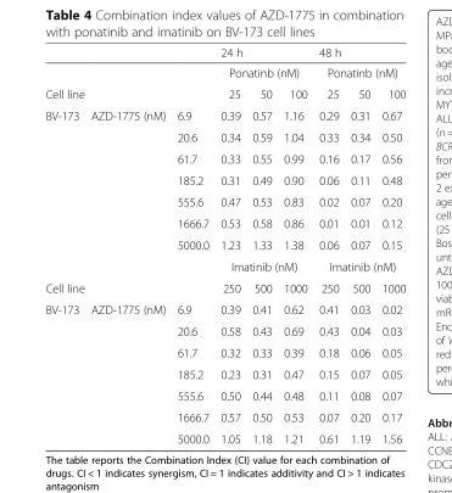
<table><thead><tr><td rowspan="2"></td><td rowspan="2"></td><td rowspan="2"></td><td rowspan="2" colspan="3">24 h Ponatinb (nM)</td><td rowspan="2" colspan="3">48 h Ponatinb (nM)</td></tr><tr></tr><tr><td colspan="3">Cell line</td><td>25</td><td>50</td><td>100</td><td>25</td><td>50</td><td>100</td></tr></thead><tbody><tr><td rowspan="8">BV-173</td><td rowspan="7">AZD-1775 (nM)</td><td>6.9</td><td>0.39</td><td>0.57</td><td>1.16</td><td>0.29</td><td>0.31</td><td>0.67</td></tr><tr><td>20.6</td><td>0.34</td><td>0.59</td><td>1.04</td><td>0.33</td><td>0.34</td><td>0.50</td></tr><tr><td>61.7</td><td>0.33</td><td>0.55</td><td>0.99</td><td>0.16</td><td>0.17</td><td>0.56</td></tr><tr><td>185.2</td><td>0.31</td><td>0.49</td><td>0.90</td><td>0.06</td><td>0.11</td><td>0.48</td></tr><tr><td>555.6</td><td>0.47</td><td>0.53</td><td>0.83</td><td>0.02</td><td>0.07</td><td>0.20</td></tr><tr><td>1666.7</td><td>0.53</td><td>0.58</td><td>0.86</td><td>0.01</td><td>0.01</td><td>0.12</td></tr><tr><td>5000.0</td><td>1.23</td><td>1.33</td><td>1.38</td><td>0.06</td><td>0.07</td><td>0.15</td></tr><tr><td></td><td></td><td colspan="3">Imatinib (nM)</td><td colspan="3">Imatinib (nM)</td></tr><tr><td colspan="3">Cell line</td><td>250</td><td>500</td><td>1000</td><td>250</td><td>500</td><td>1000</td></tr><tr><td rowspan="7">BV-173</td><td rowspan="7">AZD-1775 (nM)</td><td>6.9</td><td>0.39</td><td>0.41</td><td>0.62</td><td>0.41</td><td>0.03</td><td>0.02</td></tr><tr><td>20.6</td><td>0.58</td><td>0.43</td><td>0.69</td><td>0.43</td><td>0.04</td><td>0.03</td></tr><tr><td>61.7</td><td>0.32</td><td>0.33</td><td>0.39</td><td>0.18</td><td>0.06</td><td>0.05</td></tr><tr><td>185.2</td><td>0.23</td><td>0.31</td><td>0.47</td><td>0.15</td><td>0.07</td><td>0.05</td></tr><tr><td>555.6</td><td>0.50</td><td>0.44</td><td>0.48</td><td>0.11</td><td>0.08</td><td>0.07</td></tr><tr><td>1666.7</td><td>0.57</td><td>0.50</td><td>0.53</td><td>0.07</td><td>0.20</td><td>0.17</td></tr><tr><td>5000.0</td><td>1.05</td><td>1.18</td><td>1.21</td><td>0.61</td><td>1.19</td><td>1.56</td></tr></tbody></table>